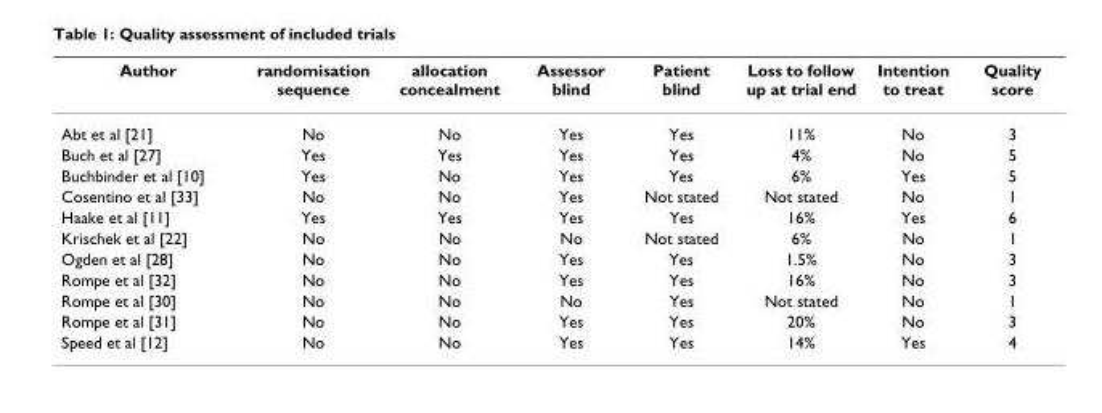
<table><thead><tr><td>Author</td><td>randomisation sequence</td><td>allocation concealment</td><td>Assessor blind</td><td>Patient blind</td><td>Loss to follow up at trial end</td><td>Intention to treat</td><td>Quality score</td></tr></thead><tbody><tr><td>Abt et al [21]</td><td>No</td><td>No</td><td>Yes</td><td>Yes</td><td>11%</td><td>No</td><td>3</td></tr><tr><td>Buch et al [27]</td><td>Yes</td><td>Yes</td><td>Yes</td><td>Yes</td><td>4%</td><td>No</td><td>5</td></tr><tr><td>Buchbinder et al [10]</td><td>Yes</td><td>No</td><td>Yes</td><td>Yes</td><td>6%</td><td>Yes</td><td>5</td></tr><tr><td>Cosentino et al [33]</td><td>No</td><td>No</td><td>Yes</td><td>Not stated</td><td>Not stated</td><td>No</td><td>1</td></tr><tr><td>Haake et al [11]</td><td>Yes</td><td>Yes</td><td>Yes</td><td>Yes</td><td>16%</td><td>Yes</td><td>6</td></tr><tr><td>Krischek et al [22]</td><td>No</td><td>No</td><td>No</td><td>Not stated</td><td>6%</td><td>No</td><td>1</td></tr><tr><td>Ogden et al [28]</td><td>No</td><td>No</td><td>Yes</td><td>Yes</td><td>1.5%</td><td>No</td><td>3</td></tr><tr><td>Rompe et al [32]</td><td>No</td><td>No</td><td>Yes</td><td>Yes</td><td>16%</td><td>No</td><td>3</td></tr><tr><td>Rompe et al [30]</td><td>No</td><td>No</td><td>No</td><td>Yes</td><td>Not stated</td><td>No</td><td>1</td></tr><tr><td>Rompe et al [31]</td><td>No</td><td>No</td><td>Yes</td><td>Yes</td><td>20%</td><td>No</td><td>3</td></tr><tr><td>Speed et al [12]</td><td>No</td><td>No</td><td>Yes</td><td>Yes</td><td>14%</td><td>Yes</td><td>4</td></tr></tbody></table>